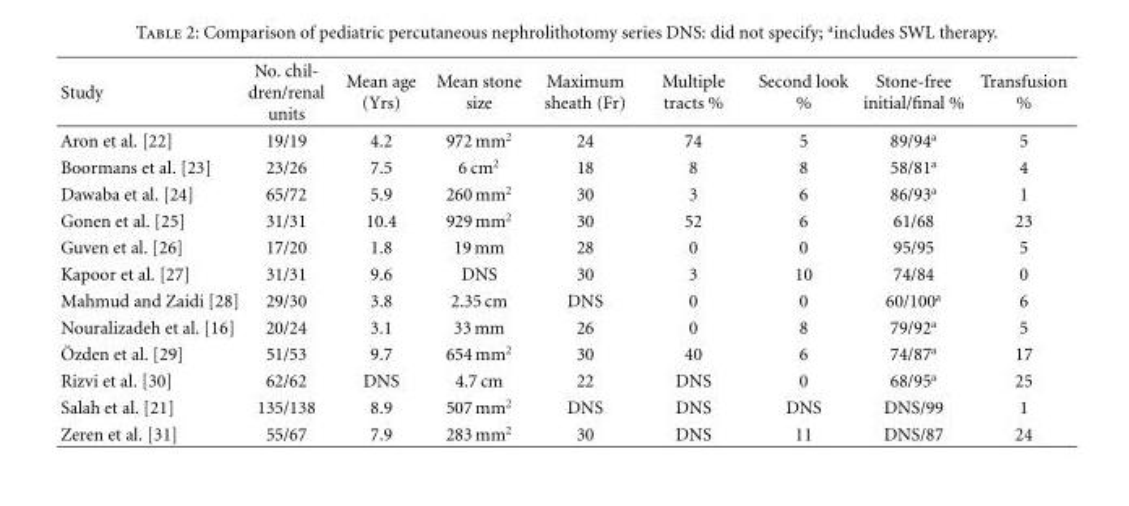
<table><thead><tr><td>Study</td><td>No. chil- dren/renal units</td><td>Mean age (Yrs)</td><td>Mean stone size</td><td>Maximum sheath (Fr)</td><td>Multiple tracts %</td><td>Second look %</td><td>Stone-free initial/final %</td><td>Transfusion %</td></tr></thead><tbody><tr><td>Aron et al. [22]</td><td>19/19</td><td>4.2</td><td>972 mm<sup>2</sup></td><td>24</td><td>74</td><td>5</td><td>89/94<sup>a</sup></td><td>5</td></tr><tr><td>Boormans et al. [23]</td><td>23/26</td><td>7.5</td><td>6 cm<sup>2</sup></td><td>18</td><td>8</td><td>8</td><td>58/81<sup>a</sup></td><td>4</td></tr><tr><td>Dawaba et al. [24]</td><td>65/72</td><td>5.9</td><td>260 mm<sup>2</sup></td><td>30</td><td>3</td><td>6</td><td>86/93<sup>a</sup></td><td>1</td></tr><tr><td>Gonen et al. [25]</td><td>31/31</td><td>10.4</td><td>929 mm<sup>2</sup></td><td>30</td><td>52</td><td>6</td><td>61/68</td><td>23</td></tr><tr><td>Guven et al. [26]</td><td>17/20</td><td>1.8</td><td>19 mm</td><td>28</td><td>0</td><td>0</td><td>95/95</td><td>5</td></tr><tr><td>Kapoor et al. [27]</td><td>31/31</td><td>9.6</td><td>DNS</td><td>30</td><td>3</td><td>10</td><td>74/84</td><td>0</td></tr><tr><td>Mahmud and Zaidi [28]</td><td>29/30</td><td>3.8</td><td>2.35 cm</td><td>DNS</td><td>0</td><td>0</td><td>60/100<sup>a</sup></td><td>6</td></tr><tr><td>Nouralizadeh et al. [16]</td><td>20/24</td><td>3.1</td><td>33 mm</td><td>26</td><td>0</td><td>8</td><td>79/92<sup>a</sup></td><td>5</td></tr><tr><td>¨Ozden et al. [29]</td><td>51/53</td><td>9.7</td><td>654 mm<sup>2</sup></td><td>30</td><td>40</td><td>6</td><td>74/87<sup>a</sup></td><td>17</td></tr><tr><td>Rizvi et al. [30]</td><td>62/62</td><td>DNS</td><td>4.7 cm</td><td>22</td><td>DNS</td><td>0</td><td>68/95<sup>a</sup></td><td>25</td></tr><tr><td>Salah et al. [21]</td><td>135/138</td><td>8.9</td><td>507 mm<sup>2</sup></td><td>DNS</td><td>DNS</td><td>DNS</td><td>DNS/99</td><td>1</td></tr><tr><td>Zeren et al. [31]</td><td>55/67</td><td>7.9</td><td>283 mm<sup>2</sup></td><td>30</td><td>DNS</td><td>11</td><td>DNS/87</td><td>24</td></tr></tbody></table>